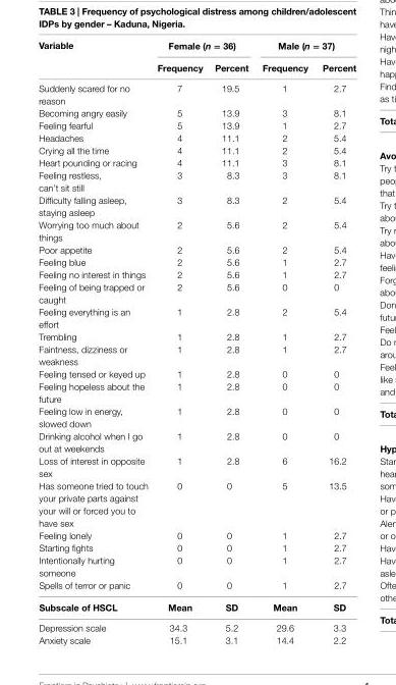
<table><thead><tr><td rowspan="2">Variable</td><td colspan="2">Female (n = 36)</td><td colspan="2">Male (n = 37)</td></tr><tr><td>Frequency</td><td>Percent</td><td>Frequency</td><td>Percent</td></tr></thead><tbody><tr><td>Suddenly scared for no reason</td><td>7</td><td>19.5</td><td>1</td><td>2.7</td></tr><tr><td>Becoming angry easily</td><td>5</td><td>13.9</td><td>3</td><td>8.1</td></tr><tr><td>Feeling fearful</td><td>5</td><td>13.9</td><td>1</td><td>2.7</td></tr><tr><td>Headaches</td><td>4</td><td>11.1</td><td>2</td><td>5.4</td></tr><tr><td>Crying all the time</td><td>4</td><td>11.1</td><td>2</td><td>5.4</td></tr><tr><td>Heart pounding or racing</td><td>4</td><td>11.1</td><td>3</td><td>8.1</td></tr><tr><td>Feeling restless, can’t sit still</td><td>3</td><td>8.3</td><td>3</td><td>8.1</td></tr><tr><td>Difficulty falling asleep, staying asleep</td><td>3</td><td>8.3</td><td>2</td><td>5.4</td></tr><tr><td>Worrying too much about things</td><td>2</td><td>5.6</td><td>2</td><td>5.4</td></tr><tr><td>Poor appetite</td><td>2</td><td>5.6</td><td>2</td><td>5.4</td></tr><tr><td>Feeling blue</td><td>2</td><td>5.6</td><td>1</td><td>2.7</td></tr><tr><td>Feeling no interest in things</td><td>2</td><td>5.6</td><td>1</td><td>2.7</td></tr><tr><td>Feeling of being trapped or caught</td><td>2</td><td>5.6</td><td>0</td><td>0</td></tr><tr><td>Feeling everything is an effort</td><td>1</td><td>2.8</td><td>2</td><td>5.4</td></tr><tr><td>Trembling</td><td>1</td><td>2.8</td><td>1</td><td>2.7</td></tr><tr><td>Faintness, dizziness or weakness</td><td>1</td><td>2.8</td><td>1</td><td>2.7</td></tr><tr><td>Feeling tensed or keyed up</td><td>1</td><td>2.8</td><td>0</td><td>0</td></tr><tr><td>Feeling hopeless about the future</td><td>1</td><td>2.8</td><td>0</td><td>0</td></tr><tr><td>Feeling low in energy, slowed down</td><td>1</td><td>2.8</td><td>0</td><td>0</td></tr><tr><td>Drinking alcohol when I go out at weekends</td><td>1</td><td>2.8</td><td>0</td><td>0</td></tr><tr><td>Loss of interest in opposite sex</td><td>1</td><td>2.8</td><td>6</td><td>16.2</td></tr><tr><td>Has someone tried to touch your private parts against your will or forced you to have sex</td><td>0</td><td>0</td><td>5</td><td>13.5</td></tr><tr><td>Feeling lonely</td><td>0</td><td>0</td><td>1</td><td>2.7</td></tr><tr><td>Starting fights</td><td>0</td><td>0</td><td>1</td><td>2.7</td></tr><tr><td>Intentionally hurting someone</td><td>0</td><td>0</td><td>1</td><td>2.7</td></tr><tr><td>Spells of terror or panic</td><td>0</td><td>0</td><td>1</td><td>2.7</td></tr><tr><td>subscale of hscl</td><td>Mean</td><td>sD</td><td>Mean</td><td>sD</td></tr><tr><td>Depression scale</td><td>34.3</td><td>5.2</td><td>29.6</td><td>3.3</td></tr><tr><td>Anxiety scale</td><td>15.1</td><td>3.1</td><td>14.4</td><td>2.2</td></tr></tbody></table>